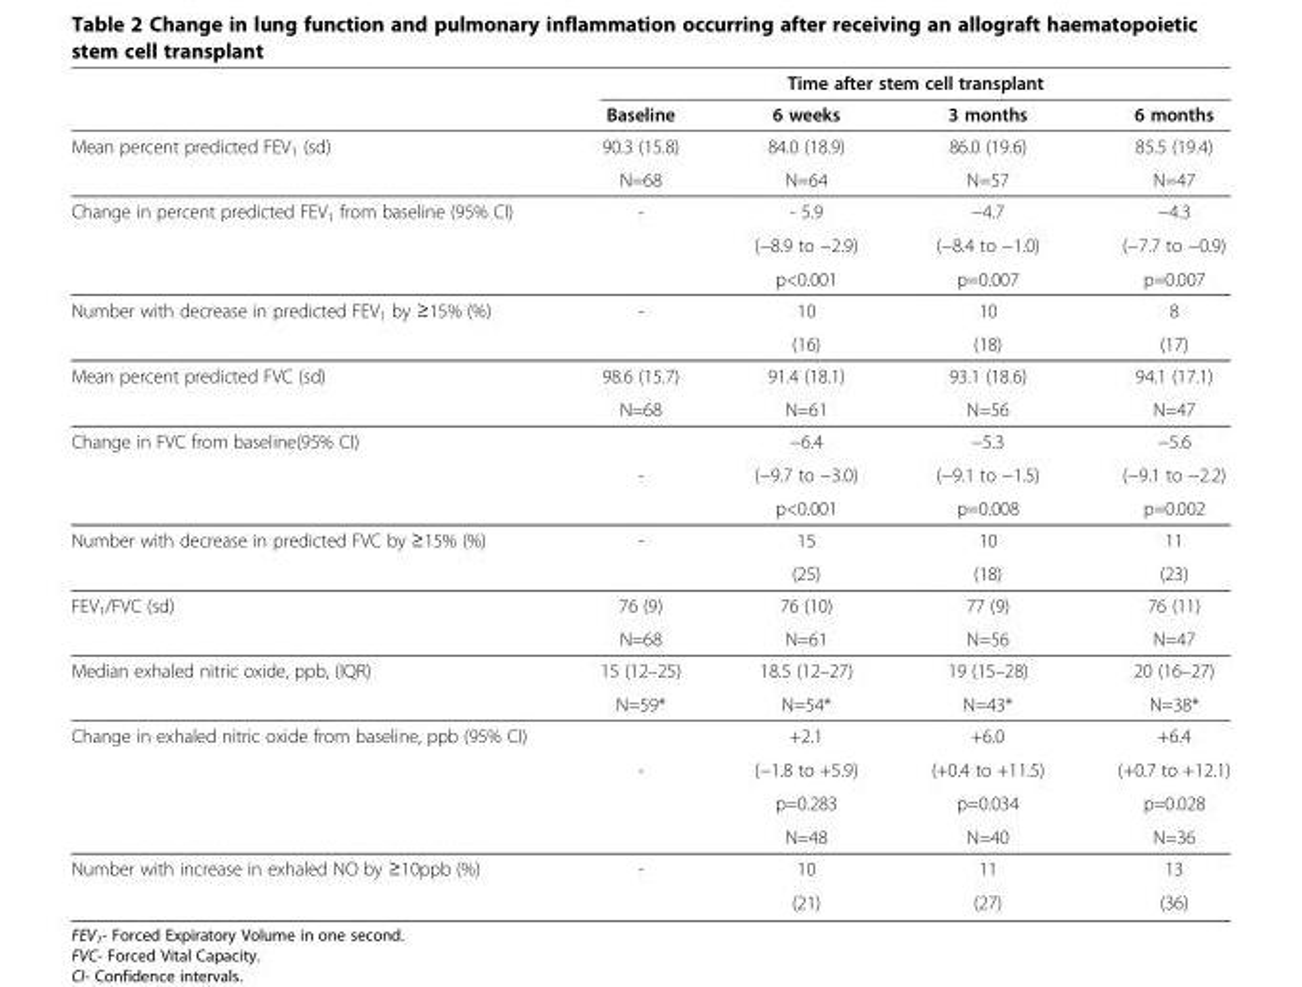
<table><thead><tr><td rowspan="2"></td><td colspan="4">Time after stem cell transplant</td></tr><tr><td>Baseline</td><td>6 weeks</td><td>3 months</td><td>6 months</td></tr></thead><tbody><tr><td rowspan="2">Mean percent predicted FEV<sub>1</sub> (sd)</td><td>90.3 (15.8)</td><td>84.0 (18.9)</td><td>86.0 (19.6)</td><td>85.5 (19.4)</td></tr><tr><td>N=68</td><td>N=64</td><td>N=57</td><td>N=47</td></tr><tr><td rowspan="3">Change in percent predicted FEV<sub>1</sub> from baseline (95% CI)</td><td>-</td><td>- 5.9</td><td>−4.7</td><td>−4.3</td></tr><tr><td></td><td>(−8.9 to −2.9)</td><td>(−8.4 to −1.0)</td><td>(−7.7 to −0.9)</td></tr><tr><td></td><td>p&lt;0.001</td><td>p=0.007</td><td>p=0.007</td></tr><tr><td rowspan="2">Number with decrease in predicted FEV<sub>1</sub> by ≥15% (%)</td><td>-</td><td>10</td><td>10</td><td>8</td></tr><tr><td></td><td>(16)</td><td>(18)</td><td>(17)</td></tr><tr><td rowspan="2">Mean percent predicted FVC (sd)</td><td>98.6 (15.7)</td><td>91.4 (18.1)</td><td>93.1 (18.6)</td><td>94.1 (17.1)</td></tr><tr><td>N=68</td><td>N=61</td><td>N=56</td><td>N=47</td></tr><tr><td rowspan="3">Change in FVC from baseline(95% CI)</td><td></td><td>−6.4</td><td>−5.3</td><td>−5.6</td></tr><tr><td>-</td><td>(−9.7 to −3.0)</td><td>(−9.1 to −1.5)</td><td>(−9.1 to −2.2)</td></tr><tr><td></td><td>p&lt;0.001</td><td>p=0.008</td><td>p=0.002</td></tr><tr><td rowspan="2">Number with decrease in predicted FVC by ≥15% (%)</td><td>-</td><td>15</td><td>10</td><td>11</td></tr><tr><td></td><td>(25)</td><td>(18)</td><td>(23)</td></tr><tr><td rowspan="2">FEV<sub>1</sub>/FVC (sd)</td><td>76 (9)</td><td>76 (10)</td><td>77 (9)</td><td>76 (11)</td></tr><tr><td>N=68</td><td>N=61</td><td>N=56</td><td>N=47</td></tr><tr><td rowspan="2">Median exhaled nitric oxide, ppb, (IQR)</td><td>15 (12–25)</td><td>18.5 (12–27)</td><td>19 (15–28)</td><td>20 (16–27)</td></tr><tr><td>N=59*</td><td>N=54*</td><td>N=43*</td><td>N=38*</td></tr><tr><td rowspan="4">Change in exhaled nitric oxide from baseline, ppb (95% CI)</td><td></td><td>+2.1</td><td>+6.0</td><td>+6.4</td></tr><tr><td>-</td><td>(−1.8 to +5.9)</td><td>(+0.4 to +11.5)</td><td>(+0.7 to +12.1)</td></tr><tr><td></td><td>p=0.283</td><td>p=0.034</td><td>p=0.028</td></tr><tr><td></td><td>N=48</td><td>N=40</td><td>N=36</td></tr><tr><td rowspan="2">Number with increase in exhaled NO by ≥10ppb (%)</td><td>-</td><td>10</td><td>11</td><td>13</td></tr><tr><td></td><td>(21)</td><td>(27)</td><td>(36)</td></tr></tbody></table>